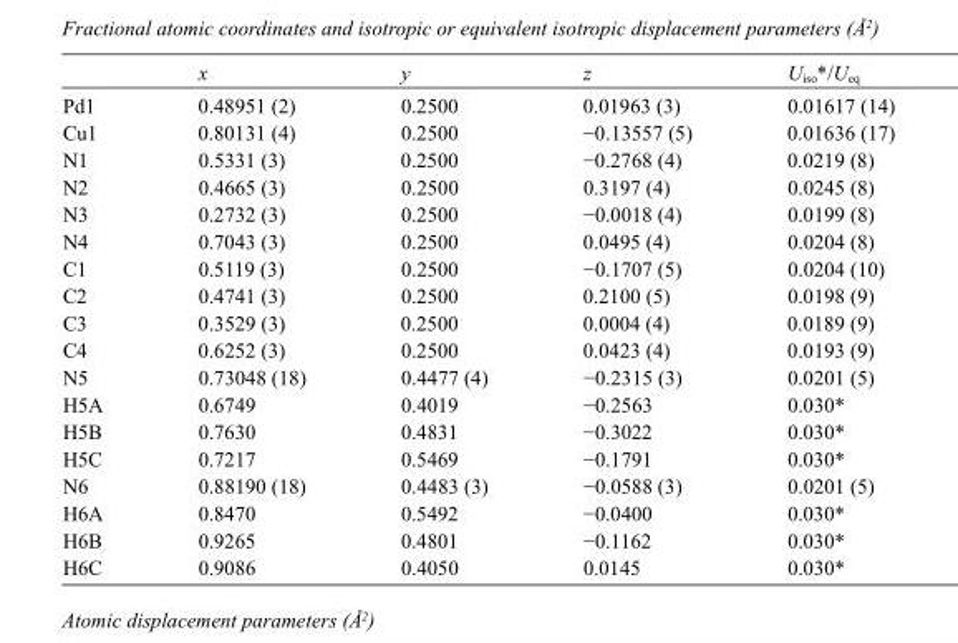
<table><thead><tr><td></td><td>x</td><td>y</td><td>z</td><td>U<sub>iso</sub>*/U<sub>eq</sub></td></tr></thead><tbody><tr><td>Pd1</td><td>0.48951 (2)</td><td>0.2500</td><td>0.01963 (3)</td><td>0.01617 (14)</td></tr><tr><td>Cu1</td><td>0.80131 (4)</td><td>0.2500</td><td>−0.13557 (5)</td><td>0.01636 (17)</td></tr><tr><td>N1</td><td>0.5331 (3)</td><td>0.2500</td><td>−0.2768 (4)</td><td>0.0219 (8)</td></tr><tr><td>N2</td><td>0.4665 (3)</td><td>0.2500</td><td>0.3197 (4)</td><td>0.0245 (8)</td></tr><tr><td>N3</td><td>0.2732 (3)</td><td>0.2500</td><td>−0.0018 (4)</td><td>0.0199 (8)</td></tr><tr><td>N4</td><td>0.7043 (3)</td><td>0.2500</td><td>0.0495 (4)</td><td>0.0204 (8)</td></tr><tr><td>C1</td><td>0.5119 (3)</td><td>0.2500</td><td>−0.1707 (5)</td><td>0.0204 (10)</td></tr><tr><td>C2</td><td>0.4741 (3)</td><td>0.2500</td><td>0.2100 (5)</td><td>0.0198 (9)</td></tr><tr><td>C3</td><td>0.3529 (3)</td><td>0.2500</td><td>0.0004 (4)</td><td>0.0189 (9)</td></tr><tr><td>C4</td><td>0.6252 (3)</td><td>0.2500</td><td>0.0423 (4)</td><td>0.0193 (9)</td></tr><tr><td>N5</td><td>0.73048 (18)</td><td>0.4477 (4)</td><td>−0.2315 (3)</td><td>0.0201 (5)</td></tr><tr><td>H5A</td><td>0.6749</td><td>0.4019</td><td>−0.2563</td><td>0.030*</td></tr><tr><td>H5B</td><td>0.7630</td><td>0.4831</td><td>−0.3022</td><td>0.030*</td></tr><tr><td>H5C</td><td>0.7217</td><td>0.5469</td><td>−0.1791</td><td>0.030*</td></tr><tr><td>N6</td><td>0.88190 (18)</td><td>0.4483 (3)</td><td>−0.0588 (3)</td><td>0.0201 (5)</td></tr><tr><td>H6A</td><td>0.8470</td><td>0.5492</td><td>−0.0400</td><td>0.030*</td></tr><tr><td>H6B</td><td>0.9265</td><td>0.4801</td><td>−0.1162</td><td>0.030*</td></tr><tr><td>H6C</td><td>0.9086</td><td>0.4050</td><td>0.0145</td><td>0.030*</td></tr></tbody></table>